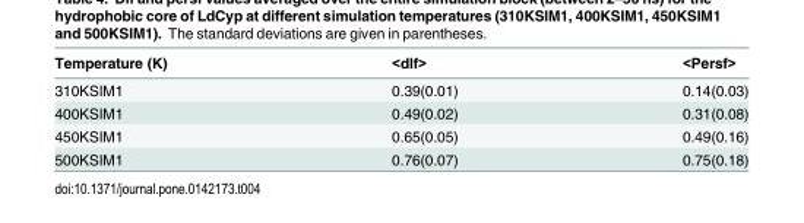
<table><thead><tr><td>Temperature (K)</td><td>&lt;dlf&gt;</td><td>&lt;Persf&gt;</td></tr></thead><tbody><tr><td>310KSIM1</td><td>0.39(0.01)</td><td>0.14(0.03)</td></tr><tr><td>400KSIM1</td><td>0.49(0.02)</td><td>0.31(0.08)</td></tr><tr><td>450KSIM1</td><td>0.65(0.05)</td><td>0.49(0.16)</td></tr><tr><td>500KSIM1</td><td>0.76(0.07)</td><td>0.75(0.18)</td></tr></tbody></table>